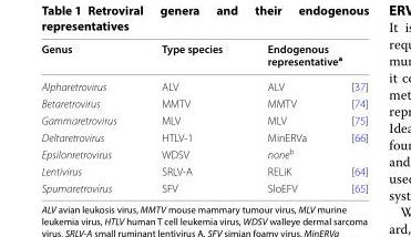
<table><thead><tr><td rowspan="2">Genus Alpharetrovirus</td><td rowspan="2">Type species ALV</td><td colspan="2">Endogenous representative<sup>a</sup></td></tr><tr><td>ALV</td><td>[37]</td></tr></thead><tbody><tr><td>Betaretrovirus</td><td>MMTV</td><td>MMTV</td><td>[74]</td></tr><tr><td>Gammaretrovirus</td><td>MLV</td><td>MLV</td><td>[75]</td></tr><tr><td>Deltaretrovirus</td><td>HTLV-1</td><td>MinERVa</td><td>[66]</td></tr><tr><td>Epsilonretrovirus</td><td>WDSV</td><td>none<sup>b</sup></td><td></td></tr><tr><td>Lentivirus</td><td>SRLV-A</td><td>RELiK</td><td>[64]</td></tr><tr><td>Spumaretrovirus</td><td>SFV</td><td>SloEFV</td><td>[65]</td></tr></tbody></table>